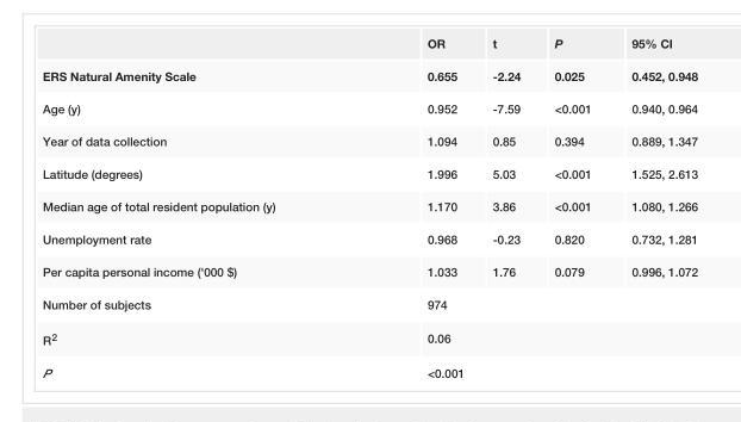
<table><thead><tr><td></td><td>OR</td><td>t</td><td>P</td><td>95% CI</td></tr></thead><tbody><tr><td>ERS Natural Amenity Scale</td><td>0.655</td><td>-2.24</td><td>0.025</td><td>0.452, 0.948</td></tr><tr><td>Age (y)</td><td>0.952</td><td>-7.59</td><td>&lt;0.001</td><td>0.940, 0.964</td></tr><tr><td>Year of data collection</td><td>1.094</td><td>0.85</td><td>0.394</td><td>0.889, 1.347</td></tr><tr><td>Latitude (degrees)</td><td>1.996</td><td>5.03</td><td>&lt;0.001</td><td>1.525, 2.613</td></tr><tr><td>Median age of total resident population (y)</td><td>1.170</td><td>3.86</td><td>&lt;0.001</td><td>1.080, 1.266</td></tr><tr><td>Unemployment rate</td><td>0.968</td><td>-0.23</td><td>0.820</td><td>0.732, 1.281</td></tr><tr><td>Per capita personal income (&#x27;000 $)</td><td>1.033</td><td>1.76</td><td>0.079</td><td>0.996, 1.072</td></tr><tr><td>Number of subjects</td><td colspan="4">974</td></tr><tr><td>R<sup>2</sup></td><td colspan="4">0.06</td></tr><tr><td>P</td><td colspan="4">&lt;0.001</td></tr></tbody></table>